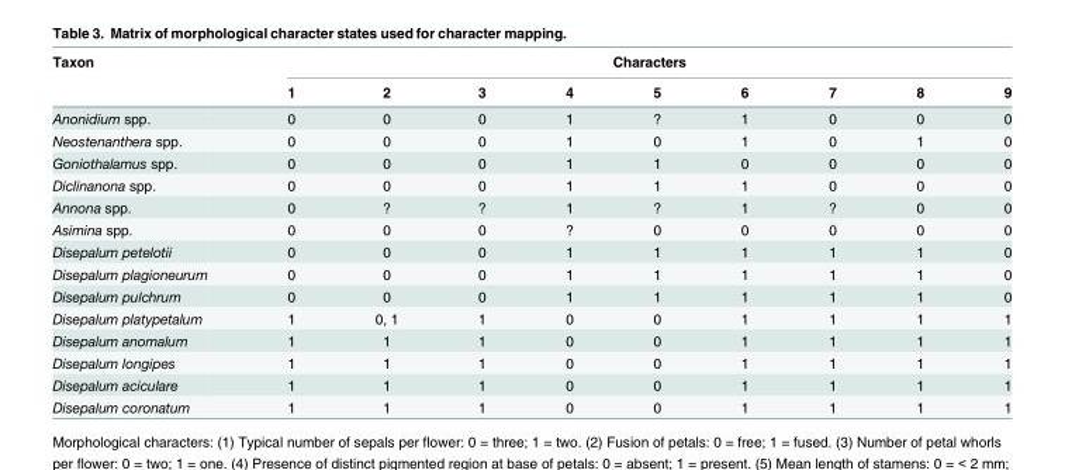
<table><thead><tr><td rowspan="2">Taxon</td><td colspan="9">Characters</td></tr><tr><td>1</td><td>2</td><td>3</td><td>4</td><td>5</td><td>6</td><td>7</td><td>8</td><td>9</td></tr></thead><tbody><tr><td>Anonidium spp.</td><td>0</td><td>0</td><td>0</td><td>1</td><td>?</td><td>1</td><td>0</td><td>0</td><td>0</td></tr><tr><td>Neostenanthera spp.</td><td>0</td><td>0</td><td>0</td><td>1</td><td>0</td><td>1</td><td>0</td><td>1</td><td>0</td></tr><tr><td>Goniothalamus spp.</td><td>0</td><td>0</td><td>0</td><td>1</td><td>1</td><td>0</td><td>0</td><td>0</td><td>0</td></tr><tr><td>Diclinanona spp.</td><td>0</td><td>0</td><td>0</td><td>1</td><td>1</td><td>1</td><td>0</td><td>0</td><td>0</td></tr><tr><td>Annona spp.</td><td>0</td><td>?</td><td>?</td><td>1</td><td>?</td><td>1</td><td>?</td><td>0</td><td>0</td></tr><tr><td>Asimina spp.</td><td>0</td><td>0</td><td>0</td><td>?</td><td>0</td><td>0</td><td>0</td><td>0</td><td>0</td></tr><tr><td>Disepalum petelotii</td><td>0</td><td>0</td><td>0</td><td>1</td><td>1</td><td>1</td><td>1</td><td>1</td><td>0</td></tr><tr><td>Disepalum plagioneurum</td><td>0</td><td>0</td><td>0</td><td>1</td><td>1</td><td>1</td><td>1</td><td>1</td><td>0</td></tr><tr><td>Disepalum pulchrum</td><td>0</td><td>0</td><td>0</td><td>1</td><td>1</td><td>1</td><td>1</td><td>1</td><td>0</td></tr><tr><td>Disepalum platypetalum</td><td>1</td><td>0, 1</td><td>1</td><td>0</td><td>0</td><td>1</td><td>1</td><td>1</td><td>1</td></tr><tr><td>Disepalum anomalum</td><td>1</td><td>1</td><td>1</td><td>0</td><td>0</td><td>1</td><td>1</td><td>1</td><td>1</td></tr><tr><td>Disepalum longipes</td><td>1</td><td>1</td><td>1</td><td>0</td><td>0</td><td>1</td><td>1</td><td>1</td><td>1</td></tr><tr><td>Disepalum aciculare</td><td>1</td><td>1</td><td>1</td><td>0</td><td>0</td><td>1</td><td>1</td><td>1</td><td>1</td></tr><tr><td>Disepalum coronatum</td><td>1</td><td>1</td><td>1</td><td>0</td><td>0</td><td>1</td><td>1</td><td>1</td><td>1</td></tr></tbody></table>